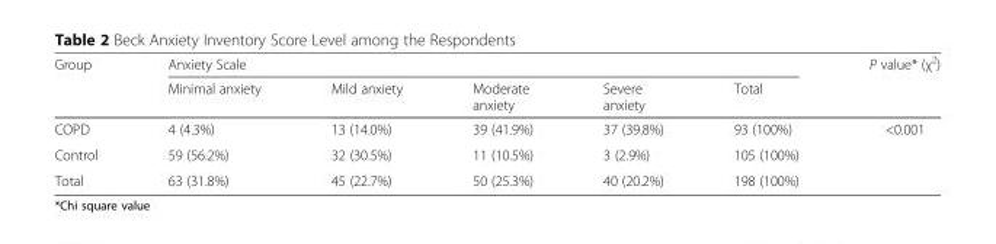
<table><thead><tr><td rowspan="2">Group</td><td colspan="5">Anxiety Scale</td><td rowspan="2">P value* (χ<sup>2</sup>)</td></tr><tr><td>Minimal anxiety</td><td>Mild anxiety</td><td>Moderate anxiety</td><td>Severe anxiety</td><td>Total</td></tr></thead><tbody><tr><td>COPD</td><td>4 (4.3%)</td><td>13 (14.0%)</td><td>39 (41.9%)</td><td>37 (39.8%)</td><td>93 (100%)</td><td rowspan="3">&lt;0.001</td></tr><tr><td>Control</td><td>59 (56.2%)</td><td>32 (30.5%)</td><td>11 (10.5%)</td><td>3 (2.9%)</td><td>105 (100%)</td></tr><tr><td>Total</td><td>63 (31.8%)</td><td>45 (22.7%)</td><td>50 (25.3%)</td><td>40 (20.2%)</td><td>198 (100%)</td></tr></tbody></table>